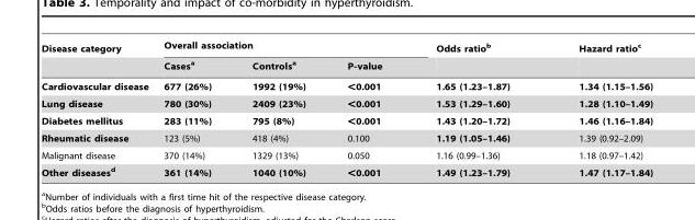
<table><thead><tr><td rowspan="2">Disease category</td><td colspan="3">Overall association</td><td rowspan="2">Odds ratio<sup>b</sup></td><td rowspan="2">Hazard ratio<sup>c</sup></td></tr><tr><td>Cases<sup>a</sup></td><td>Controls<sup>a</sup></td><td>P-value</td></tr></thead><tbody><tr><td>Cardiovascular disease</td><td>677 (26%)</td><td>1992 (19%)</td><td>&lt;0.001</td><td>1.65 (1.23–1.87)</td><td>1.34 (1.15–1.56)</td></tr><tr><td>Lung disease</td><td>780 (30%)</td><td>2409 (23%)</td><td>&lt;0.001</td><td>1.53 (1.29–1.60)</td><td>1.28 (1.10–1.49)</td></tr><tr><td>Diabetes mellitus</td><td>283 (11%)</td><td>795 (8%)</td><td>&lt;0.001</td><td>1.43 (1.20–1.72)</td><td>1.46 (1.16–1.84)</td></tr><tr><td>Rheumatic disease</td><td>123 (5%)</td><td>418 (4%)</td><td>0.100</td><td>1.19 (1.05–1.46)</td><td>1.39 (0.92–2.09)</td></tr><tr><td>Malignant disease</td><td>370 (14%)</td><td>1329 (13%)</td><td>0.050</td><td>1.16 (0.99–1.36)</td><td>1.18 (0.97–1.42)</td></tr><tr><td>Other diseasesd</td><td>361 (14%)</td><td>1040 (10%)</td><td>&lt;0.001</td><td>1.49 (1.23–1.79)</td><td>1.47 (1.17–1.84)</td></tr></tbody></table>